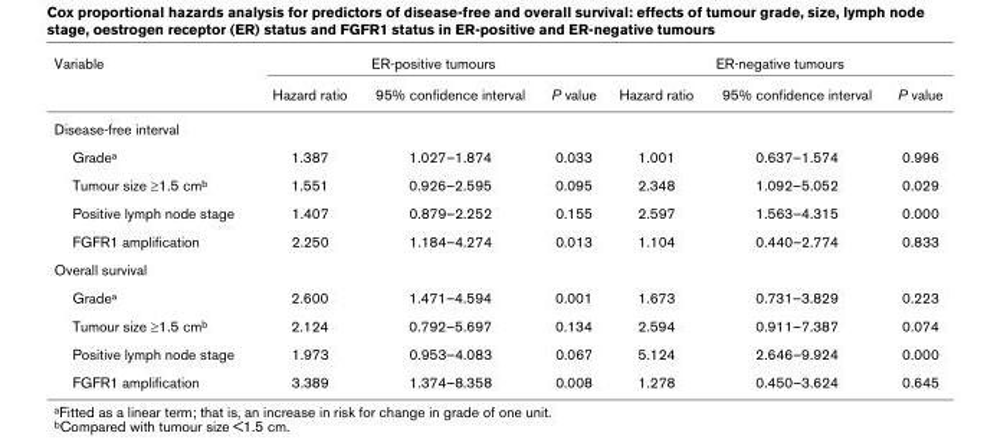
<table><thead><tr><td rowspan="2">Variable</td><td colspan="3">ER-positive tumours</td><td colspan="3">ER-negative tumours</td></tr><tr><td>Hazard ratio</td><td>95% confidence interval</td><td>P value</td><td>Hazard ratio</td><td>95% confidence interval</td><td>P value</td></tr></thead><tbody><tr><td colspan="7">Disease-free interval</td></tr><tr><td>Gradea</td><td>1.387</td><td>1.027–1.874</td><td>0.033</td><td>1.001</td><td>0.637–1.574</td><td>0.996</td></tr><tr><td>Tumour size ≥1.5 cmb</td><td>1.551</td><td>0.926–2.595</td><td>0.095</td><td>2.348</td><td>1.092–5.052</td><td>0.029</td></tr><tr><td>Positive lymph node stage</td><td>1.407</td><td>0.879–2.252</td><td>0.155</td><td>2.597</td><td>1.563–4.315</td><td>0.000</td></tr><tr><td>FGFR1 amplification</td><td>2.250</td><td>1.184–4.274</td><td>0.013</td><td>1.104</td><td>0.440–2.774</td><td>0.833</td></tr><tr><td colspan="7">Overall survival</td></tr><tr><td>Gradea</td><td>2.600</td><td>1.471–4.594</td><td>0.001</td><td>1.673</td><td>0.731–3.829</td><td>0.223</td></tr><tr><td>Tumour size ≥1.5 cmb</td><td>2.124</td><td>0.792–5.697</td><td>0.134</td><td>2.594</td><td>0.911–7.387</td><td>0.074</td></tr><tr><td>Positive lymph node stage</td><td>1.973</td><td>0.953–4.083</td><td>0.067</td><td>5.124</td><td>2.646–9.924</td><td>0.000</td></tr><tr><td>FGFR1 amplification</td><td>3.389</td><td>1.374–8.358</td><td>0.008</td><td>1.278</td><td>0.450–3.624</td><td>0.645</td></tr></tbody></table>